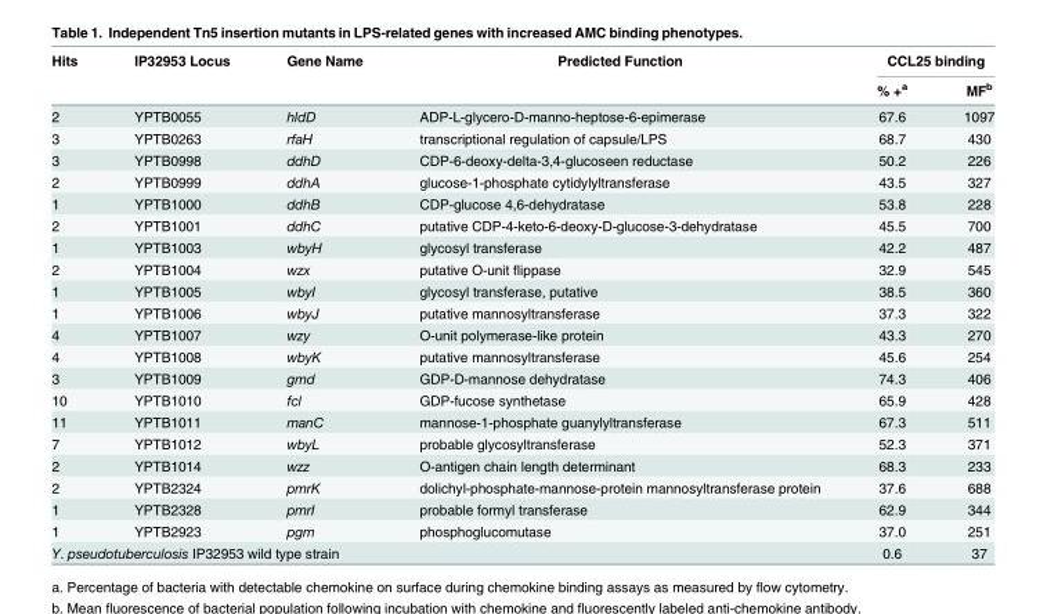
<table><thead><tr><td rowspan="2">Hits</td><td rowspan="2">IP32953 Locus</td><td rowspan="2">Gene Name</td><td rowspan="2">Predicted Function</td><td colspan="2">CCL25 binding</td></tr><tr><td>% +<sup>a</sup></td><td>MF<sup>b</sup></td></tr></thead><tbody><tr><td>2</td><td>YPTB0055</td><td>hldD</td><td>ADP-L-glycero-D-manno-heptose-6-epimerase</td><td>67.6</td><td>1097</td></tr><tr><td>3</td><td>YPTB0263</td><td>rfaH</td><td>transcriptional regulation of capsule/LPS</td><td>68.7</td><td>430</td></tr><tr><td>3</td><td>YPTB0998</td><td>ddhD</td><td>CDP-6-deoxy-delta-3,4-glucoseen reductase</td><td>50.2</td><td>226</td></tr><tr><td>2</td><td>YPTB0999</td><td>ddhA</td><td>glucose-1-phosphate cytidylyltransferase</td><td>43.5</td><td>327</td></tr><tr><td>1</td><td>YPTB1000</td><td>ddhB</td><td>CDP-glucose 4,6-dehydratase</td><td>53.8</td><td>228</td></tr><tr><td>2</td><td>YPTB1001</td><td>ddhC</td><td>putative CDP-4-keto-6-deoxy-D-glucose-3-dehydratase</td><td>45.5</td><td>700</td></tr><tr><td>1</td><td>YPTB1003</td><td>wbyH</td><td>glycosyl transferase</td><td>42.2</td><td>487</td></tr><tr><td>2</td><td>YPTB1004</td><td>wzx</td><td>putative O-unit flippase</td><td>32.9</td><td>545</td></tr><tr><td>1</td><td>YPTB1005</td><td>wbyI</td><td>glycosyl transferase, putative</td><td>38.5</td><td>360</td></tr><tr><td>1</td><td>YPTB1006</td><td>wbyJ</td><td>putative mannosyltransferase</td><td>37.3</td><td>322</td></tr><tr><td>4</td><td>YPTB1007</td><td>wzy</td><td>O-unit polymerase-like protein</td><td>43.3</td><td>270</td></tr><tr><td>4</td><td>YPTB1008</td><td>wbyK</td><td>putative mannosyltransferase</td><td>45.6</td><td>254</td></tr><tr><td>3</td><td>YPTB1009</td><td>gmd</td><td>GDP-D-mannose dehydratase</td><td>74.3</td><td>406</td></tr><tr><td>10</td><td>YPTB1010</td><td>fcl</td><td>GDP-fucose synthetase</td><td>65.9</td><td>428</td></tr><tr><td>11</td><td>YPTB1011</td><td>manC</td><td>mannose-1-phosphate guanylyltransferase</td><td>67.3</td><td>511</td></tr><tr><td>7</td><td>YPTB1012</td><td>wbyL</td><td>probable glycosyltransferase</td><td>52.3</td><td>371</td></tr><tr><td>2</td><td>YPTB1014</td><td>wzz</td><td>O-antigen chain length determinant</td><td>68.3</td><td>233</td></tr><tr><td>2</td><td>YPTB2324</td><td>pmrK</td><td>dolichyl-phosphate-mannose-protein mannosyltransferase protein</td><td>37.6</td><td>688</td></tr><tr><td>1</td><td>YPTB2328</td><td>pmrI</td><td>probable formyl transferase</td><td>62.9</td><td>344</td></tr><tr><td>1</td><td>YPTB2923</td><td>pgm</td><td>phosphoglucomutase</td><td>37.0</td><td>251</td></tr><tr><td colspan="4">Y. pseudotuberculosis IP32953 wild type strain</td><td>0.6</td><td>37</td></tr></tbody></table>